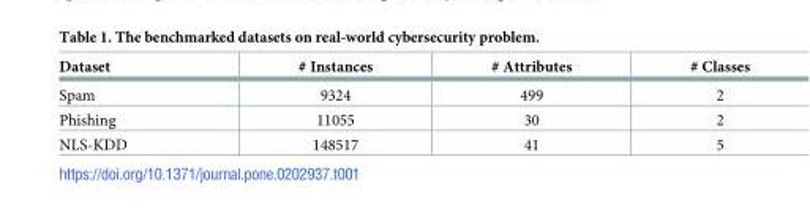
<table><thead><tr><td>Dataset</td><td># Instances</td><td># Attributes</td><td># Classes</td></tr></thead><tbody><tr><td>Spam</td><td>9324</td><td>499</td><td>2</td></tr><tr><td>Phishing</td><td>11055</td><td>30</td><td>2</td></tr><tr><td>NLS-KDD</td><td>148517</td><td>41</td><td>5</td></tr></tbody></table>